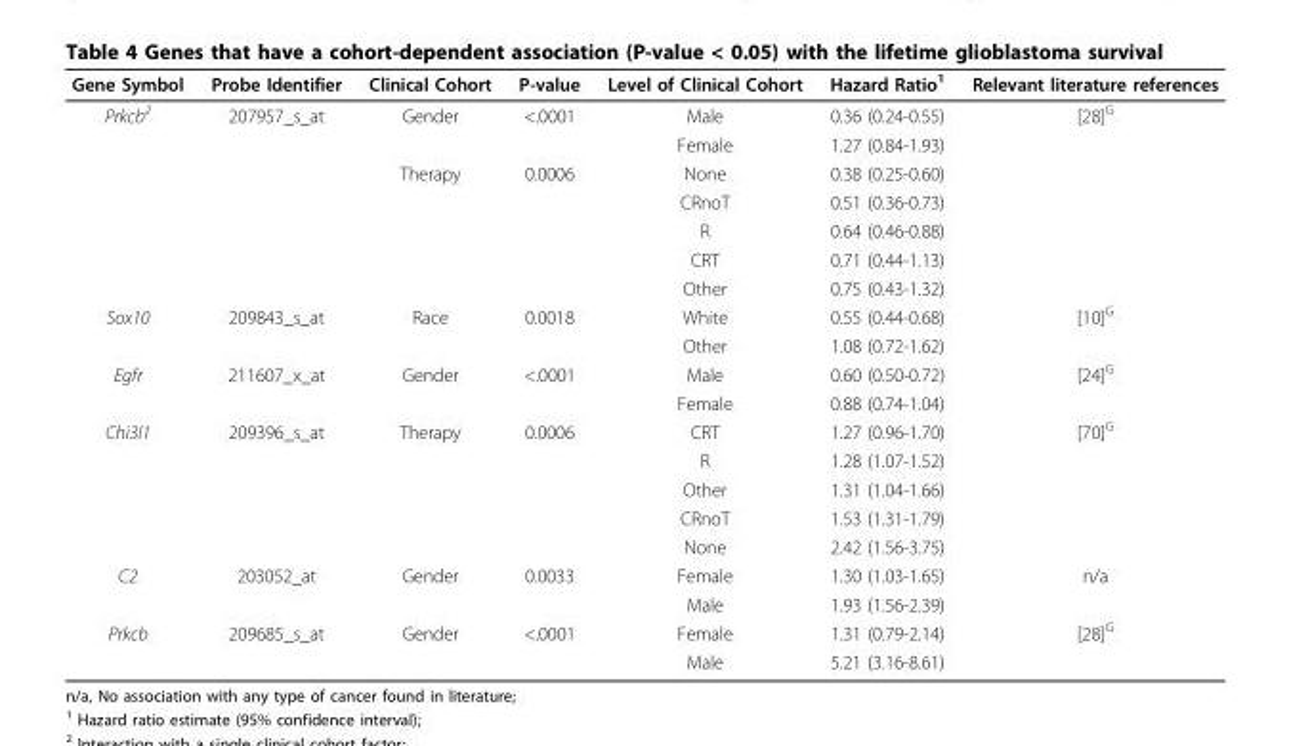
<table><thead><tr><td>Gene Symbol</td><td>Probe Identifier</td><td>Clinical Cohort</td><td>P-value</td><td>Level of Clinical Cohort</td><td>Hazard Ratio<sup>1</sup></td><td>Relevant literature references</td></tr></thead><tbody><tr><td rowspan="7">Prkcb<sup>2</sup></td><td>207957_s_at</td><td>Gender</td><td>&lt;.0001</td><td>Male</td><td>0.36 (0.24-0.55)</td><td>[28]<sup>G</sup></td></tr><tr><td></td><td></td><td></td><td>Female</td><td>1.27 (0.84-1.93)</td><td></td></tr><tr><td></td><td>Therapy</td><td>0.0006</td><td>None</td><td>0.38 (0.25-0.60)</td><td></td></tr><tr><td></td><td></td><td></td><td>CRnoT</td><td>0.51 (0.36-0.73)</td><td></td></tr><tr><td></td><td></td><td></td><td>R</td><td>0.64 (0.46-0.88)</td><td></td></tr><tr><td></td><td></td><td></td><td>CRT</td><td>0.71 (0.44-1.13)</td><td></td></tr><tr><td></td><td></td><td></td><td>Other</td><td>0.75 (0.43-1.32)</td><td></td></tr><tr><td rowspan="2">Sox10</td><td>209843_s_at</td><td>Race</td><td>0.0018</td><td>White</td><td>0.55 (0.44-0.68)</td><td>[10]<sup>G</sup></td></tr><tr><td></td><td></td><td></td><td>Other</td><td>1.08 (0.72-1.62)</td><td></td></tr><tr><td rowspan="2">Egfr</td><td>211607_x_at</td><td>Gender</td><td>&lt;.0001</td><td>Male</td><td>0.60 (0.50-0.72)</td><td>[24]<sup>G</sup></td></tr><tr><td></td><td></td><td></td><td>Female</td><td>0.88 (0.74-1.04)</td><td></td></tr><tr><td rowspan="5">Chi3l1</td><td>209396_s_at</td><td>Therapy</td><td>0.0006</td><td>CRT</td><td>1.27 (0.96-1.70)</td><td>[70]<sup>G</sup></td></tr><tr><td></td><td></td><td></td><td>R</td><td>1.28 (1.07-1.52)</td><td></td></tr><tr><td></td><td></td><td></td><td>Other</td><td>1.31 (1.04-1.66)</td><td></td></tr><tr><td></td><td></td><td></td><td>CRnoT</td><td>1.53 (1.31-1.79)</td><td></td></tr><tr><td></td><td></td><td></td><td>None</td><td>2.42 (1.56-3.75)</td><td></td></tr><tr><td rowspan="2">C2</td><td>203052_at</td><td>Gender</td><td>0.0033</td><td>Female</td><td>1.30 (1.03-1.65)</td><td>n/a</td></tr><tr><td></td><td></td><td></td><td>Male</td><td>1.93 (1.56-2.39)</td><td></td></tr><tr><td rowspan="2">Prkcb</td><td>209685_s_at</td><td>Gender</td><td>&lt;.0001</td><td>Female</td><td>1.31 (0.79-2.14)</td><td>[28]<sup>G</sup></td></tr><tr><td></td><td></td><td></td><td>Male</td><td>5.21 (3.16-8.61)</td><td></td></tr></tbody></table>